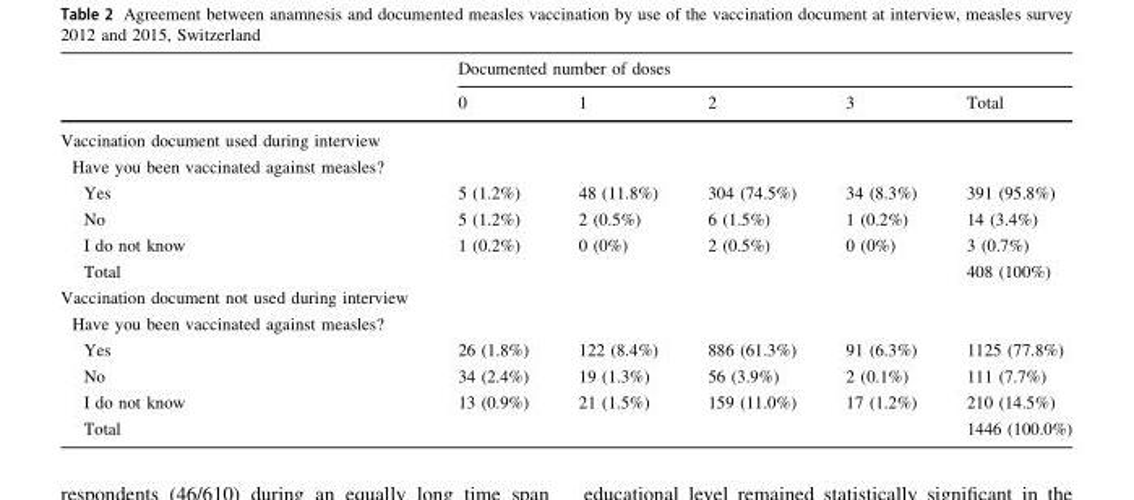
<table><thead><tr><td rowspan="2"></td><td colspan="5">Documented number of doses</td></tr><tr><td>0</td><td>1</td><td>2</td><td>3</td><td>Total</td></tr></thead><tbody><tr><td colspan="6">Vaccination document used during interview</td></tr><tr><td colspan="6">Have you been vaccinated against measles?</td></tr><tr><td>Yes</td><td>5 (1.2%)</td><td>48 (11.8%)</td><td>304 (74.5%)</td><td>34 (8.3%)</td><td>391 (95.8%)</td></tr><tr><td>No</td><td>5 (1.2%)</td><td>2 (0.5%)</td><td>6 (1.5%)</td><td>1 (0.2%)</td><td>14 (3.4%)</td></tr><tr><td>I do not know</td><td>1 (0.2%)</td><td>0 (0%)</td><td>2 (0.5%)</td><td>0 (0%)</td><td>3 (0.7%)</td></tr><tr><td>Total</td><td></td><td></td><td></td><td></td><td>408 (100%)</td></tr><tr><td colspan="6">Vaccination document not used during interview</td></tr><tr><td colspan="6">Have you been vaccinated against measles?</td></tr><tr><td>Yes</td><td>26 (1.8%)</td><td>122 (8.4%)</td><td>886 (61.3%)</td><td>91 (6.3%)</td><td>1125 (77.8%)</td></tr><tr><td>No</td><td>34 (2.4%)</td><td>19 (1.3%)</td><td>56 (3.9%)</td><td>2 (0.1%)</td><td>111 (7.7%)</td></tr><tr><td>I do not know</td><td>13 (0.9%)</td><td>21 (1.5%)</td><td>159 (11.0%)</td><td>17 (1.2%)</td><td>210 (14.5%)</td></tr><tr><td>Total</td><td></td><td></td><td></td><td></td><td>1446 (100.0%)</td></tr></tbody></table>